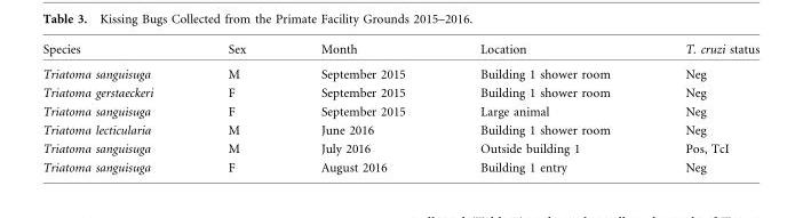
<table><thead><tr><td>Species</td><td>Sex</td><td>Month</td><td>Location</td><td>T. cruzi status</td></tr></thead><tbody><tr><td>Triatoma sanguisuga</td><td>M</td><td>September 2015</td><td>Building 1 shower room</td><td>Neg</td></tr><tr><td>Triatoma gerstaeckeri</td><td>F</td><td>September 2015</td><td>Building 1 shower room</td><td>Neg</td></tr><tr><td>Triatoma sanguisuga</td><td>F</td><td>September 2015</td><td>Large animal</td><td>Neg</td></tr><tr><td>Triatoma lecticularia</td><td>M</td><td>June 2016</td><td>Building 1 shower room</td><td>Neg</td></tr><tr><td>Triatoma sanguisuga</td><td>M</td><td>July 2016</td><td>Outside building 1</td><td>Pos, TcI</td></tr><tr><td>Triatoma sanguisuga</td><td>F</td><td>August 2016</td><td>Building 1 entry</td><td>Neg</td></tr></tbody></table>